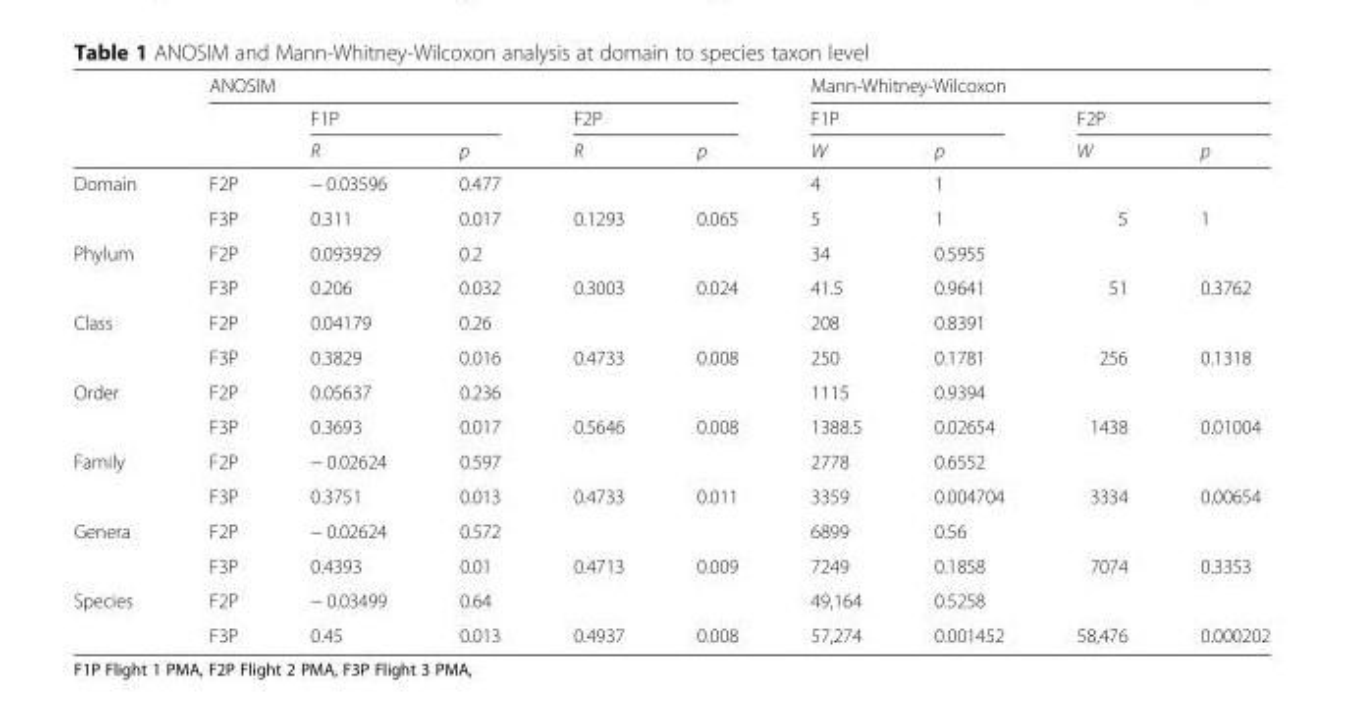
<table><thead><tr><td rowspan="3"></td><td colspan="5">ANOSIM</td><td colspan="4">Mann-Whitney-Wilcoxon</td></tr><tr><td rowspan="2"></td><td colspan="2">F1P</td><td colspan="2">F2P</td><td colspan="2">F1P</td><td colspan="2">F2P</td></tr><tr><td>R</td><td>p</td><td>R</td><td>p</td><td>W</td><td>p</td><td>W</td><td>p</td></tr></thead><tbody><tr><td rowspan="2">Domain</td><td>F2P</td><td>− 0.03596</td><td>0.477</td><td></td><td></td><td>4</td><td>1</td><td></td><td></td></tr><tr><td>F3P</td><td>0.311</td><td>0.017</td><td>0.1293</td><td>0.065</td><td>5</td><td>1</td><td>5</td><td>1</td></tr><tr><td rowspan="2">Phylum</td><td>F2P</td><td>0.093929</td><td>0.2</td><td></td><td></td><td>34</td><td>0.5955</td><td></td><td></td></tr><tr><td>F3P</td><td>0.206</td><td>0.032</td><td>0.3003</td><td>0.024</td><td>41.5</td><td>0.9641</td><td>51</td><td>0.3762</td></tr><tr><td rowspan="2">Class</td><td>F2P</td><td>0.04179</td><td>0.26</td><td></td><td></td><td>208</td><td>0.8391</td><td></td><td></td></tr><tr><td>F3P</td><td>0.3829</td><td>0.016</td><td>0.4733</td><td>0.008</td><td>250</td><td>0.1781</td><td>256</td><td>0.1318</td></tr><tr><td rowspan="2">Order</td><td>F2P</td><td>0.05637</td><td>0.236</td><td></td><td></td><td>1115</td><td>0.9394</td><td></td><td></td></tr><tr><td>F3P</td><td>0.3693</td><td>0.017</td><td>0.5646</td><td>0.008</td><td>1388.5</td><td>0.02654</td><td>1438</td><td>0.01004</td></tr><tr><td rowspan="2">Family</td><td>F2P</td><td>− 0.02624</td><td>0.597</td><td></td><td></td><td>2778</td><td>0.6552</td><td></td><td></td></tr><tr><td>F3P</td><td>0.3751</td><td>0.013</td><td>0.4733</td><td>0.011</td><td>3359</td><td>0.004704</td><td>3334</td><td>0.00654</td></tr><tr><td rowspan="2">Genera</td><td>F2P</td><td>− 0.02624</td><td>0.572</td><td></td><td></td><td>6899</td><td>0.56</td><td></td><td></td></tr><tr><td>F3P</td><td>0.4393</td><td>0.01</td><td>0.4713</td><td>0.009</td><td>7249</td><td>0.1858</td><td>7074</td><td>0.3353</td></tr><tr><td rowspan="2">Species</td><td>F2P</td><td>− 0.03499</td><td>0.64</td><td></td><td></td><td>49,164</td><td>0.5258</td><td></td><td></td></tr><tr><td>F3P</td><td>0.45</td><td>0.013</td><td>0.4937</td><td>0.008</td><td>57,274</td><td>0.001452</td><td>58,476</td><td>0.000202</td></tr></tbody></table>